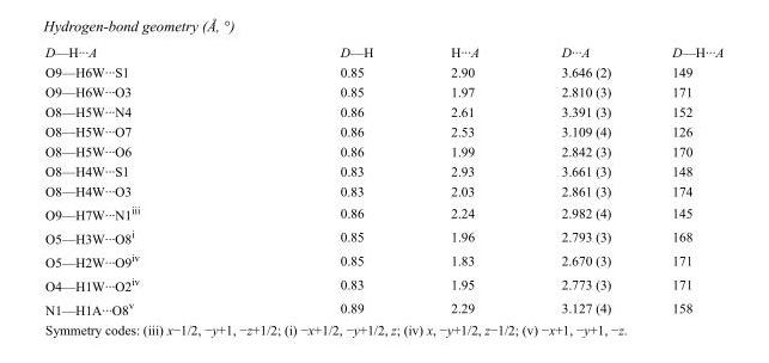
<table><tbody><tr><td>D—H···A</td><td>D—H</td><td>H···A</td><td>D···A</td><td>D—H···A</td></tr><tr><td>O9—H6W···S1</td><td>0.85</td><td>2.90</td><td>3.646 (2)</td><td>149</td></tr><tr><td>O9—H6W···O3</td><td>0.85</td><td>1.97</td><td>2.810 (3)</td><td>171</td></tr><tr><td>O8—H5W···N4</td><td>0.86</td><td>2.61</td><td>3.391 (3)</td><td>152</td></tr><tr><td>O8—H5W···O7</td><td>0.86</td><td>2.53</td><td>3.109 (4)</td><td>126</td></tr><tr><td>O8—H5W···O6</td><td>0.86</td><td>1.99</td><td>2.842 (3)</td><td>170</td></tr><tr><td>O8—H4W···S1</td><td>0.83</td><td>2.93</td><td>3.661 (3)</td><td>148</td></tr><tr><td>O8—H4W···O3</td><td>0.83</td><td>2.03</td><td>2.861 (3)</td><td>174</td></tr><tr><td>O9—H7W···N1<sup>iii</sup></td><td>0.86</td><td>2.24</td><td>2.982 (4)</td><td>145</td></tr><tr><td>O5—H3W···O8<sup>i</sup></td><td>0.85</td><td>1.96</td><td>2.793 (3)</td><td>168</td></tr><tr><td>O5—H2W···O9<sup>iv</sup></td><td>0.85</td><td>1.83</td><td>2.670 (3)</td><td>171</td></tr><tr><td>O4—H1W···O2<sup>iv</sup></td><td>0.83</td><td>1.95</td><td>2.773 (3)</td><td>171</td></tr><tr><td>N1—H1A···O8<sup>v</sup></td><td>0.89</td><td>2.29</td><td>3.127 (4)</td><td>158</td></tr></tbody></table>